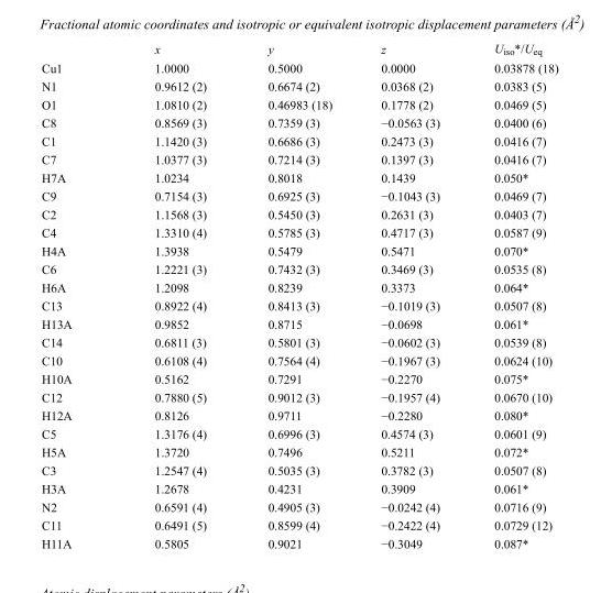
<table><thead><tr><td></td><td>x</td><td>y</td><td>z</td><td>U<sub>iso</sub>*/U<sub>eq</sub></td></tr></thead><tbody><tr><td>Cu1</td><td>1.0000</td><td>0.5000</td><td>0.0000</td><td>0.03878 (18)</td></tr><tr><td>N1</td><td>0.9612 (2)</td><td>0.6674 (2)</td><td>0.0368 (2)</td><td>0.0383 (5)</td></tr><tr><td>O1</td><td>1.0810 (2)</td><td>0.46983 (18)</td><td>0.1778 (2)</td><td>0.0469 (5)</td></tr><tr><td>C8</td><td>0.8569 (3)</td><td>0.7359 (3)</td><td>−0.0563 (3)</td><td>0.0400 (6)</td></tr><tr><td>C1</td><td>1.1420 (3)</td><td>0.6686 (3)</td><td>0.2473 (3)</td><td>0.0416 (7)</td></tr><tr><td>C7</td><td>1.0377 (3)</td><td>0.7214 (3)</td><td>0.1397 (3)</td><td>0.0416 (7)</td></tr><tr><td>H7A</td><td>1.0234</td><td>0.8018</td><td>0.1439</td><td>0.050*</td></tr><tr><td>C9</td><td>0.7154 (3)</td><td>0.6925 (3)</td><td>−0.1043 (3)</td><td>0.0469 (7)</td></tr><tr><td>C2</td><td>1.1568 (3)</td><td>0.5450 (3)</td><td>0.2631 (3)</td><td>0.0403 (7)</td></tr><tr><td>C4</td><td>1.3310 (4)</td><td>0.5785 (3)</td><td>0.4717 (3)</td><td>0.0587 (9)</td></tr><tr><td>H4A</td><td>1.3938</td><td>0.5479</td><td>0.5471</td><td>0.070*</td></tr><tr><td>C6</td><td>1.2221 (3)</td><td>0.7432 (3)</td><td>0.3469 (3)</td><td>0.0535 (8)</td></tr><tr><td>H6A</td><td>1.2098</td><td>0.8239</td><td>0.3373</td><td>0.064*</td></tr><tr><td>C13</td><td>0.8922 (4)</td><td>0.8413 (3)</td><td>−0.1019 (3)</td><td>0.0507 (8)</td></tr><tr><td>H13A</td><td>0.9852</td><td>0.8715</td><td>−0.0698</td><td>0.061*</td></tr><tr><td>C14</td><td>0.6811 (3)</td><td>0.5801 (3)</td><td>−0.0602 (3)</td><td>0.0539 (8)</td></tr><tr><td>C10</td><td>0.6108 (4)</td><td>0.7564 (4)</td><td>−0.1967 (3)</td><td>0.0624 (10)</td></tr><tr><td>H10A</td><td>0.5162</td><td>0.7291</td><td>−0.2270</td><td>0.075*</td></tr><tr><td>C12</td><td>0.7880 (5)</td><td>0.9012 (3)</td><td>−0.1957 (4)</td><td>0.0670 (10)</td></tr><tr><td>H12A</td><td>0.8126</td><td>0.9711</td><td>−0.2280</td><td>0.080*</td></tr><tr><td>C5</td><td>1.3176 (4)</td><td>0.6996 (3)</td><td>0.4574 (3)</td><td>0.0601 (9)</td></tr><tr><td>H5A</td><td>1.3720</td><td>0.7496</td><td>0.5211</td><td>0.072*</td></tr><tr><td>C3</td><td>1.2547 (4)</td><td>0.5035 (3)</td><td>0.3782 (3)</td><td>0.0507 (8)</td></tr><tr><td>H3A</td><td>1.2678</td><td>0.4231</td><td>0.3909</td><td>0.061*</td></tr><tr><td>N2</td><td>0.6591 (4)</td><td>0.4905 (3)</td><td>−0.0242 (4)</td><td>0.0716 (9)</td></tr><tr><td>C11</td><td>0.6491 (5)</td><td>0.8599 (4)</td><td>−0.2422 (4)</td><td>0.0729 (12)</td></tr><tr><td>H11A</td><td>0.5805</td><td>0.9021</td><td>−0.3049</td><td>0.087*</td></tr></tbody></table>